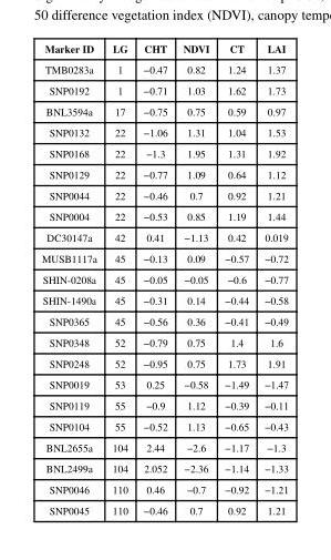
<table><thead><tr><td>Marker ID</td><td>LG</td><td>CHT</td><td>NDVI</td><td>CT</td><td>LAI</td></tr></thead><tbody><tr><td>TMB0283a</td><td>1</td><td>−0.47</td><td>0.82</td><td>1.24</td><td>1.37</td></tr><tr><td>SNP0192</td><td>1</td><td>−0.71</td><td>1.03</td><td>1.62</td><td>1.73</td></tr><tr><td>BNL3594a</td><td>17</td><td>−0.75</td><td>0.75</td><td>0.59</td><td>0.97</td></tr><tr><td>SNP0132</td><td>22</td><td>−1.06</td><td>1.31</td><td>1.04</td><td>1.53</td></tr><tr><td>SNP0168</td><td>22</td><td>−1.3</td><td>1.95</td><td>1.31</td><td>1.92</td></tr><tr><td>SNP0129</td><td>22</td><td>−0.77</td><td>1.09</td><td>0.64</td><td>1.12</td></tr><tr><td>SNP0044</td><td>22</td><td>−0.46</td><td>0.7</td><td>0.92</td><td>1.21</td></tr><tr><td>SNP0004</td><td>22</td><td>−0.53</td><td>0.85</td><td>1.19</td><td>1.44</td></tr><tr><td>DC30147a</td><td>42</td><td>0.41</td><td>−1.13</td><td>0.42</td><td>0.019</td></tr><tr><td>MUSB1117a</td><td>45</td><td>−0.13</td><td>0.09</td><td>−0.57</td><td>−0.72</td></tr><tr><td>SHIN-0208a</td><td>45</td><td>−0.05</td><td>−0.05</td><td>−0.6</td><td>−0.77</td></tr><tr><td>SHIN-1490a</td><td>45</td><td>−0.31</td><td>0.14</td><td>−0.44</td><td>−0.58</td></tr><tr><td>SNP0365</td><td>45</td><td>−0.56</td><td>0.36</td><td>−0.41</td><td>−0.49</td></tr><tr><td>SNP0348</td><td>52</td><td>−0.79</td><td>0.75</td><td>1.4</td><td>1.6</td></tr><tr><td>SNP0248</td><td>52</td><td>−0.95</td><td>0.75</td><td>1.73</td><td>1.91</td></tr><tr><td>SNP0019</td><td>53</td><td>0.25</td><td>−0.58</td><td>−1.49</td><td>−1.47</td></tr><tr><td>SNP0119</td><td>55</td><td>−0.9</td><td>1.12</td><td>−0.39</td><td>−0.11</td></tr><tr><td>SNP0104</td><td>55</td><td>−0.52</td><td>1.13</td><td>−0.65</td><td>−0.43</td></tr><tr><td>BNL2655a</td><td>104</td><td>2.44</td><td>−2.6</td><td>−1.17</td><td>−1.3</td></tr><tr><td>BNL2499a</td><td>104</td><td>2.052</td><td>−2.36</td><td>−1.14</td><td>−1.33</td></tr><tr><td>SNP0046</td><td>110</td><td>0.46</td><td>−0.7</td><td>−0.92</td><td>−1.21</td></tr><tr><td>SNP0045</td><td>110</td><td>−0.46</td><td>0.7</td><td>0.92</td><td>1.21</td></tr></tbody></table>